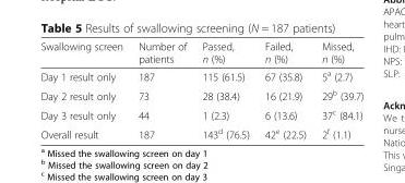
<table><thead><tr><td>Swallowing screen</td><td>Number of patients</td><td>Passed, n (%)</td><td>Failed, n (%)</td><td>Missed, n (%)</td></tr></thead><tbody><tr><td>Day 1 result only</td><td>187</td><td>115 (61.5)</td><td>67 (35.8)</td><td>5<sup>a</sup> (2.7)</td></tr><tr><td>Day 2 result only</td><td>73</td><td>28 (38.4)</td><td>16 (21.9)</td><td>29<sup>b</sup> (39.7)</td></tr><tr><td>Day 3 result only</td><td>44</td><td>1 (2.3)</td><td>6 (13.6)</td><td>37<sup>c</sup> (84.1)</td></tr><tr><td>Overall result</td><td>187</td><td>143<sup>d</sup> (76.5)</td><td>42<sup>e</sup> (22.5)</td><td>2<sup>f</sup> (1.1)</td></tr></tbody></table>